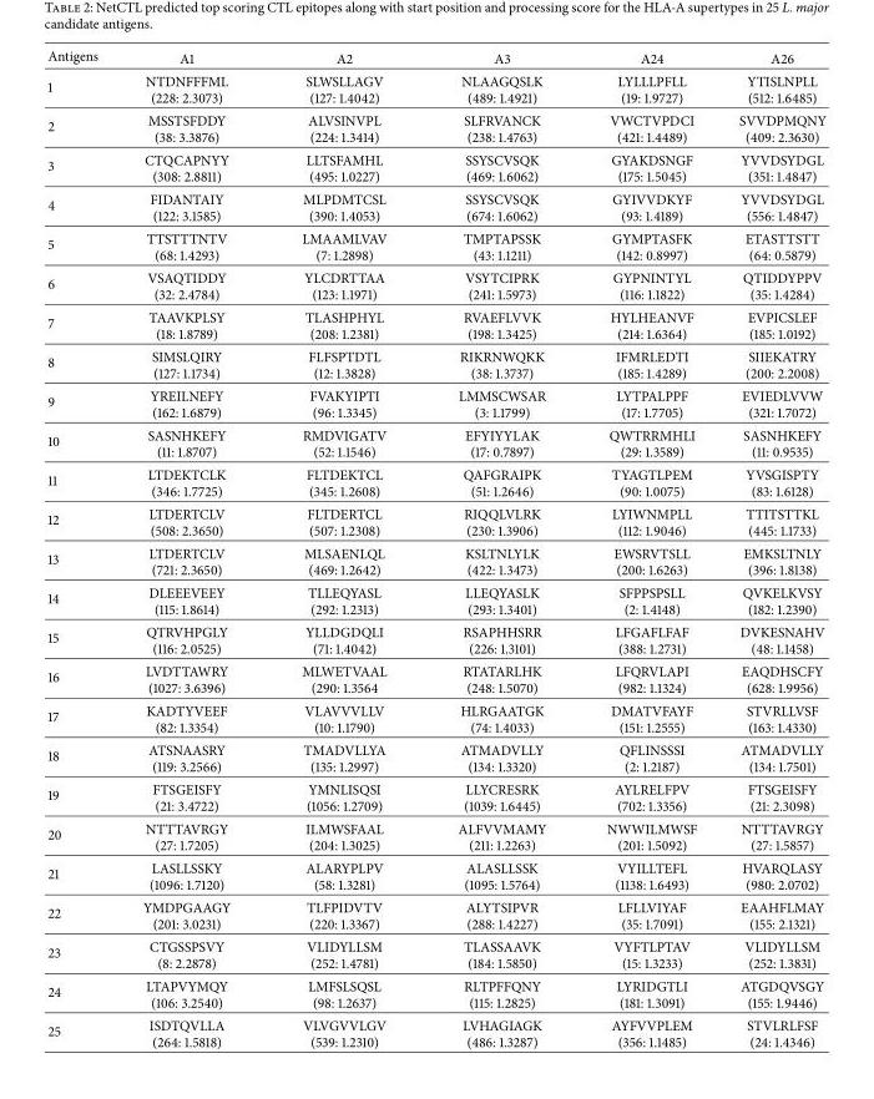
<table><thead><tr><td>Antigens</td><td>A1</td><td>A2</td><td>A3</td><td>A24</td><td>A26</td></tr></thead><tbody><tr><td>1</td><td>NTDNFFFML (228: 2.3073)</td><td>SLWSLLAGV (127: 1.4042)</td><td>NLAAGQSLK (489: 1.4921)</td><td>LYLLLPFLL (19: 1.9727)</td><td>YTISLNPLL (512: 1.6485)</td></tr><tr><td>2</td><td>MSSTSFDDY (38: 3.3876)</td><td>ALVSINVPL (224: 1.3414)</td><td>SLFRVANCK (238: 1.4763)</td><td>VWCTVPDCI (421: 1.4489)</td><td>SVVDPMQNY (409: 2.3630)</td></tr><tr><td>3</td><td>CTQCAPNYY (308: 2.8811)</td><td>LLTSFAMHL (495: 1.0227)</td><td>SSYSCVSQK (469: 1.6062)</td><td>GYAKDSNGF (175: 1.5045)</td><td>YVVDSYDGL (351: 1.4847)</td></tr><tr><td>4</td><td>FIDANTAIY (122: 3.1585)</td><td>MLPDMTCSL (390: 1.4053)</td><td>SSYSCVSQK (674: 1.6062)</td><td>GYIVVDKYF (93: 1.4189)</td><td>YVVDSYDGL (556: 1.4847)</td></tr><tr><td>5</td><td>TTSTTTNTV (68: 1.4293)</td><td>LMAAMLVAV (7: 1.2898)</td><td>TMPTAPSSK (43: 1.1211)</td><td>GYMPTASFK (142: 0.8997)</td><td>ETASTTSTT (64: 0.5879)</td></tr><tr><td>6</td><td>VSAQTIDDY (32: 2.4784)</td><td>YLCDRTTAA (123: 1.1971)</td><td>VSYTCIPRK (241: 1.5973)</td><td>GYPNINTYL (116: 1.1822)</td><td>QTIDDYPPV (35: 1.4284)</td></tr><tr><td>7</td><td>TAAVKPLSY (18: 1.8789)</td><td>TLASHPHYL (208: 1.2381)</td><td>RVAEFLVVK (198: 1.3425)</td><td>HYLHEANVF (214: 1.6364)</td><td>EVPICSLEF (185: 1.0192)</td></tr><tr><td>8</td><td>SIMSLQIRY (127: 1.1734)</td><td>FLFSPTDTL (12: 1.3828)</td><td>RIKRNWQKK (38: 1.3737)</td><td>IFMRLEDTI (185: 1.4289)</td><td>SIIEKATRY (200: 2.2008)</td></tr><tr><td>9</td><td>YREILNEFY (162: 1.6879)</td><td>FVAKYIPTI (96: 1.3345)</td><td>LMMSCWSAR (3: 1.1799)</td><td>LYTPALPPF (17: 1.7705)</td><td>EVIEDLVVW (321: 1.7072)</td></tr><tr><td>10</td><td>SASNHKEFY (11: 1.8707)</td><td>RMDVIGATV (52: 1.1546)</td><td>EFYIYYLAK (17: 0.7897)</td><td>QWTRRMHLI (29: 1.3589)</td><td>SASNHKEFY (11: 0.9535)</td></tr><tr><td>11</td><td>LTDEKTCLK (346: 1.7725)</td><td>FLTDEKTCL (345: 1.2608)</td><td>QAFGRAIPK (51: 1.2646)</td><td>TYAGTLPEM (90: 1.0075)</td><td>YVSGISPTY (83: 1.6128)</td></tr><tr><td>12</td><td>LTDERTCLV (508: 2.3650)</td><td>FLTDERTCL (507: 1.2308)</td><td>RIQQLVLRK (230: 1.3906)</td><td>LYIWNMPLL (112: 1.9046)</td><td>TTITSTTKL (445: 1.1733)</td></tr><tr><td>13</td><td>LTDERTCLV (721: 2.3650)</td><td>MLSAENLQL (469: 1.2642)</td><td>KSLTNLYLK (422: 1.3473)</td><td>EWSRVTSLL (200: 1.6263)</td><td>EMKSLTNLY (396: 1.8138)</td></tr><tr><td>14</td><td>DLEEEVEEY (115: 1.8614)</td><td>TLLEQYASL (292: 1.2313)</td><td>LLEQYASLK (293: 1.3401)</td><td>SFPPSPSLL (2: 1.4148)</td><td>QVKELKVSY (182: 1.2390)</td></tr><tr><td>15</td><td>QTRVHPGLY (116: 2.0525)</td><td>YLLDGDQLI (71: 1.4042)</td><td>RSAPHHSRR (226: 1.3101)</td><td>LFGAFLFAF (388: 1.2731)</td><td>DVKESNAHV (48: 1.1458)</td></tr><tr><td>16</td><td>LVDTTAWRY (1027: 3.6396)</td><td>MLWETVAAL (290: 1.3564</td><td>RTATARLHK (248: 1.5070)</td><td>LFQRVLAPI (982: 1.1324)</td><td>EAQDHSCFY (628: 1.9956)</td></tr><tr><td>17</td><td>KADTYVEEF (82: 1.3354)</td><td>VLAVVVLLV (10: 1.1790)</td><td>HLRGAATGK (74: 1.4033)</td><td>DMATVFAYF (151: 1.2555)</td><td>STVRLLVSF (163: 1.4330)</td></tr><tr><td>18</td><td>ATSNAASRY (119: 3.2566)</td><td>TMADVLLYA (135: 1.2997)</td><td>ATMADVLLY (134: 1.3320)</td><td>QFLINSSSI (2: 1.2187)</td><td>ATMADVLLY (134: 1.7501)</td></tr><tr><td>19</td><td>FTSGEISFY (21: 3.4722)</td><td>YMNLISQSI (1056: 1.2709)</td><td>LLYCRESRK (1039: 1.6445)</td><td>AYLRELFPV (702: 1.3356)</td><td>FTSGEISFY (21: 2.3098)</td></tr><tr><td>20</td><td>NTTTAVRGY (27: 1.7205)</td><td>ILMWSFAAL (204: 1.3025)</td><td>ALFVVMAMY (211: 1.2263)</td><td>NWWILMWSF (201: 1.5092)</td><td>NTTTAVRGY (27: 1.5857)</td></tr><tr><td>21</td><td>LASLLSSKY (1096: 1.7120)</td><td>ALARYPLPV (58: 1.3281)</td><td>ALASLLSSK (1095: 1.5764)</td><td>VYILLTEFL (1138: 1.6493)</td><td>HVARQLASY (980: 2.0702)</td></tr><tr><td>22</td><td>YMDPGAAGY (201: 3.0231)</td><td>TLFPIDVTV (220: 1.3367)</td><td>ALYTSIPVR (288: 1.4227)</td><td>LFLLVIYAF (35: 1.7091)</td><td>EAAHFLMAY (155: 2.1321)</td></tr><tr><td>23</td><td>CTGSSPSVY (8: 2.2878)</td><td>VLIDYLLSM (252: 1.4781)</td><td>TLASSAAVK (184: 1.5850)</td><td>VYFTLPTAV (15: 1.3233)</td><td>VLIDYLLSM (252: 1.3831)</td></tr><tr><td>24</td><td>LTAPVYMQY (106: 3.2540)</td><td>LMFSLSQSL (98: 1.2637)</td><td>RLTPFFQNY (115: 1.2825)</td><td>LYRIDGTLI (181: 1.3091)</td><td>ATGDQVSGY (155: 1.9446)</td></tr><tr><td>25</td><td>ISDTQVLLA (264: 1.5818)</td><td>VLVGVVLGV (539: 1.2310)</td><td>LVHAGIAGK (486: 1.3287)</td><td>AYFVVPLEM (356: 1.1485)</td><td>STVLRLFSF (24: 1.4346)</td></tr></tbody></table>